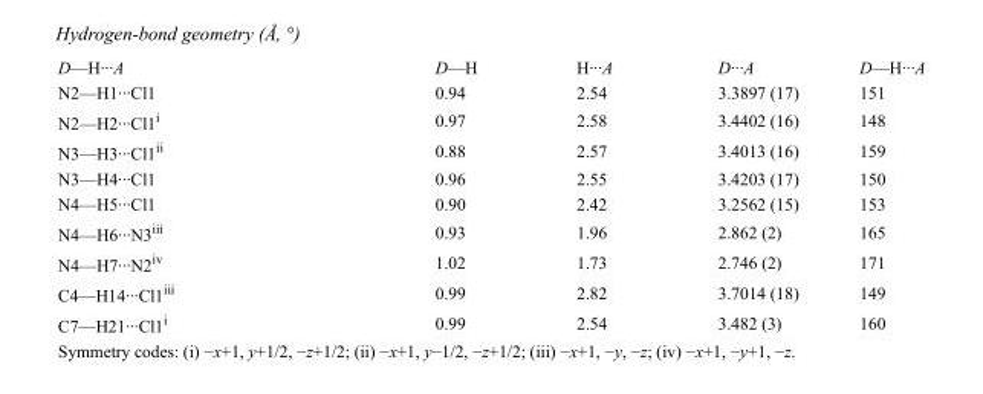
<table><tbody><tr><td>D—H···A</td><td>D—H</td><td>H···A</td><td>D···A</td><td>D—H···A</td></tr><tr><td>N2—H1···Cl1</td><td>0.94</td><td>2.54</td><td>3.3897 (17)</td><td>151</td></tr><tr><td>N2—H2···Cl1<sup>i</sup></td><td>0.97</td><td>2.58</td><td>3.4402 (16)</td><td>148</td></tr><tr><td>N3—H3···Cl1<sup>ii</sup></td><td>0.88</td><td>2.57</td><td>3.4013 (16)</td><td>159</td></tr><tr><td>N3—H4···Cl1</td><td>0.96</td><td>2.55</td><td>3.4203 (17)</td><td>150</td></tr><tr><td>N4—H5···Cl1</td><td>0.90</td><td>2.42</td><td>3.2562 (15)</td><td>153</td></tr><tr><td>N4—H6···N3<sup>iii</sup></td><td>0.93</td><td>1.96</td><td>2.862 (2)</td><td>165</td></tr><tr><td>N4—H7···N2<sup>iv</sup></td><td>1.02</td><td>1.73</td><td>2.746 (2)</td><td>171</td></tr><tr><td>C4—H14···Cl1<sup>iii</sup></td><td>0.99</td><td>2.82</td><td>3.7014 (18)</td><td>149</td></tr><tr><td>C7—H21···Cl1<sup>i</sup></td><td>0.99</td><td>2.54</td><td>3.482 (3)</td><td>160</td></tr></tbody></table>